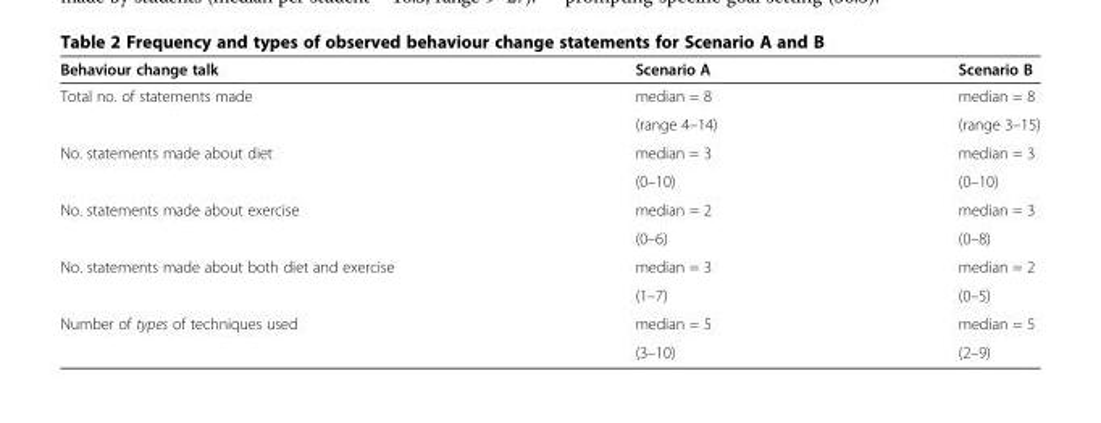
<table><thead><tr><td>Behaviour change talk</td><td>Scenario A</td><td>Scenario B</td></tr></thead><tbody><tr><td rowspan="2">Total no. of statements made</td><td>median = 8</td><td>median = 8</td></tr><tr><td>(range 4–14)</td><td>(range 3–15)</td></tr><tr><td rowspan="2">No. statements made about diet</td><td>median = 3</td><td>median = 3</td></tr><tr><td>(0–10)</td><td>(0–10)</td></tr><tr><td rowspan="2">No. statements made about exercise</td><td>median = 2</td><td>median = 3</td></tr><tr><td>(0–6)</td><td>(0–8)</td></tr><tr><td rowspan="2">No. statements made about both diet and exercise</td><td>median = 3</td><td>median = 2</td></tr><tr><td>(1–7)</td><td>(0–5)</td></tr><tr><td rowspan="2">Number of types of techniques used</td><td>median = 5</td><td>median = 5</td></tr><tr><td>(3–10)</td><td>(2–9)</td></tr></tbody></table>